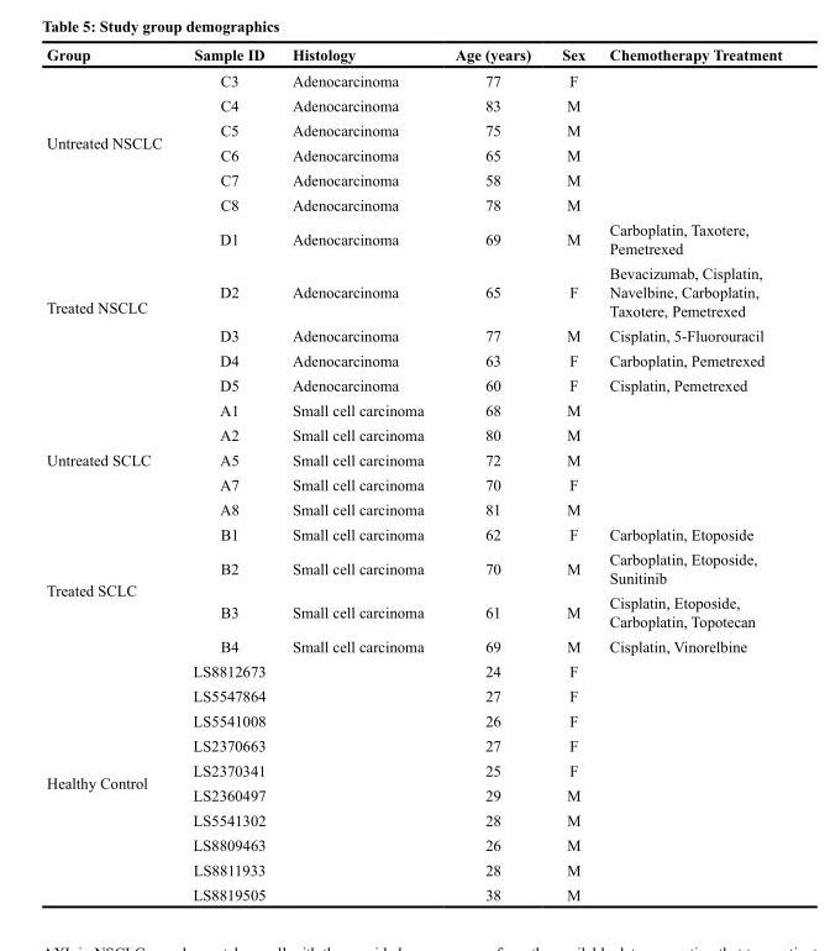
<table><thead><tr><td>Group</td><td>Sample ID</td><td>Histology</td><td>Age (years)</td><td>Sex</td><td>Chemotherapy Treatment</td></tr></thead><tbody><tr><td rowspan="6">Untreated NSCLC</td><td>C3</td><td>Adenocarcinoma</td><td>77</td><td>F</td><td rowspan="6"></td></tr><tr><td>C4</td><td>Adenocarcinoma</td><td>83</td><td>M</td></tr><tr><td>C5</td><td>Adenocarcinoma</td><td>75</td><td>M</td></tr><tr><td>C6</td><td>Adenocarcinoma</td><td>65</td><td>M</td></tr><tr><td>C7</td><td>Adenocarcinoma</td><td>58</td><td>M</td></tr><tr><td>C8</td><td>Adenocarcinoma</td><td>78</td><td>M</td></tr><tr><td rowspan="5">Treated NSCLC</td><td>D1</td><td>Adenocarcinoma</td><td>69</td><td>M</td><td>Carboplatin, Taxotere, Pemetrexed</td></tr><tr><td>D2</td><td>Adenocarcinoma</td><td>65</td><td>F</td><td>Bevacizumab, Cisplatin, Navelbine, Carboplatin, Taxotere, Pemetrexed</td></tr><tr><td>D3</td><td>Adenocarcinoma</td><td>77</td><td>M</td><td>Cisplatin, 5-Fluorouracil</td></tr><tr><td>D4</td><td>Adenocarcinoma</td><td>63</td><td>F</td><td>Carboplatin, Pemetrexed</td></tr><tr><td>D5</td><td>Adenocarcinoma</td><td>60</td><td>F</td><td>Cisplatin, Pemetrexed</td></tr><tr><td rowspan="5">Untreated SCLC</td><td>A1</td><td>Small cell carcinoma</td><td>68</td><td>M</td><td rowspan="5"></td></tr><tr><td>A2</td><td>Small cell carcinoma</td><td>80</td><td>M</td></tr><tr><td>A5</td><td>Small cell carcinoma</td><td>72</td><td>M</td></tr><tr><td>A7</td><td>Small cell carcinoma</td><td>70</td><td>F</td></tr><tr><td>A8</td><td>Small cell carcinoma</td><td>81</td><td>M</td></tr><tr><td rowspan="4">Treated SCLC</td><td>B1</td><td>Small cell carcinoma</td><td>62</td><td>F</td><td>Carboplatin, Etoposide</td></tr><tr><td>B2</td><td>Small cell carcinoma</td><td>70</td><td>M</td><td>Carboplatin, Etoposide, Sunitinib</td></tr><tr><td>B3</td><td>Small cell carcinoma</td><td>61</td><td>M</td><td>Cisplatin, Etoposide, Carboplatin, Topotecan</td></tr><tr><td>B4</td><td>Small cell carcinoma</td><td>69</td><td>M</td><td>Cisplatin, Vinorelbine</td></tr><tr><td rowspan="10">Healthy Control</td><td>LS8812673</td><td rowspan="10"></td><td>24</td><td>F</td><td rowspan="10"></td></tr><tr><td>LS5547864</td><td>27</td><td>F</td></tr><tr><td>LS5541008</td><td>26</td><td>F</td></tr><tr><td>LS2370663</td><td>27</td><td>F</td></tr><tr><td>LS2370341</td><td>25</td><td>F</td></tr><tr><td>LS2360497</td><td>29</td><td>M</td></tr><tr><td>LS5541302</td><td>28</td><td>M</td></tr><tr><td>LS8809463</td><td>26</td><td>M</td></tr><tr><td>LS8811933</td><td>28</td><td>M</td></tr><tr><td>LS8819505</td><td>38</td><td>M</td></tr></tbody></table>